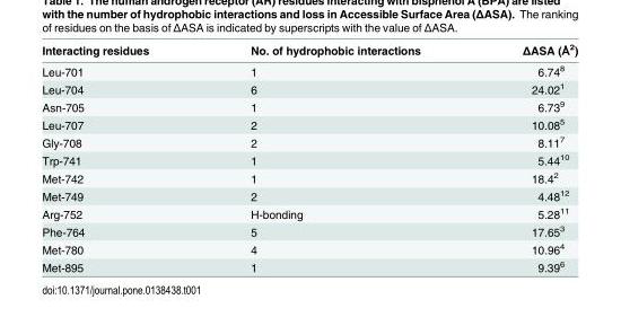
<table><thead><tr><td>Interacting residues</td><td>No. of hydrophobic interactions</td><td>ΔASA (Å<sup>2</sup>)</td></tr></thead><tbody><tr><td>Leu-701</td><td>1</td><td>6.74<sup>8</sup></td></tr><tr><td>Leu-704</td><td>6</td><td>24.02<sup>1</sup></td></tr><tr><td>Asn-705</td><td>1</td><td>6.73<sup>9</sup></td></tr><tr><td>Leu-707</td><td>2</td><td>10.08<sup>5</sup></td></tr><tr><td>Gly-708</td><td>2</td><td>8.11<sup>7</sup></td></tr><tr><td>Trp-741</td><td>1</td><td>5.44<sup>10</sup></td></tr><tr><td>Met-742</td><td>1</td><td>18.4<sup>2</sup></td></tr><tr><td>Met-749</td><td>2</td><td>4.48<sup>12</sup></td></tr><tr><td>Arg-752</td><td>H-bonding</td><td>5.28<sup>11</sup></td></tr><tr><td>Phe-764</td><td>5</td><td>17.65<sup>3</sup></td></tr><tr><td>Met-780</td><td>4</td><td>10.96<sup>4</sup></td></tr><tr><td>Met-895</td><td>1</td><td>9.39<sup>6</sup></td></tr></tbody></table>